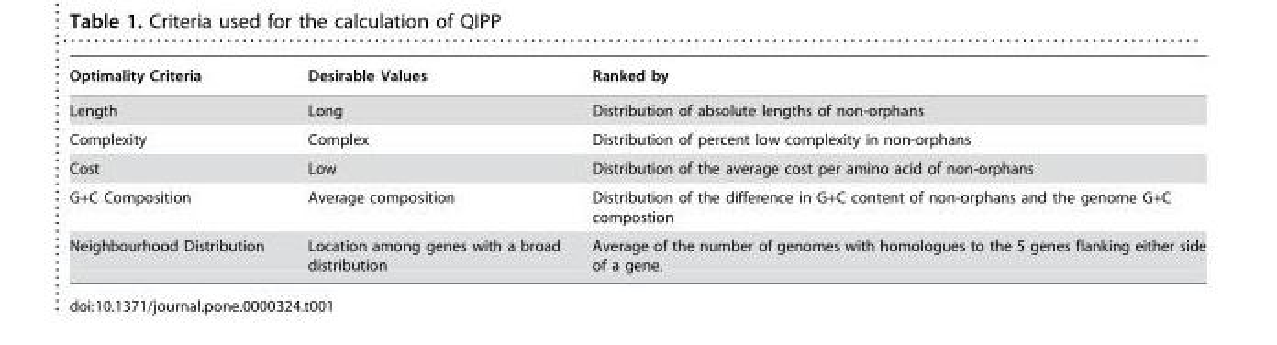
<table><thead><tr><td>Optimality Criteria</td><td>Desirable Values</td><td>Ranked by</td></tr></thead><tbody><tr><td>Length</td><td>Long</td><td>Distribution of absolute lengths of non-orphans</td></tr><tr><td>Complexity</td><td>Complex</td><td>Distribution of percent low complexity in non-orphans</td></tr><tr><td>Cost</td><td>Low</td><td>Distribution of the average cost per amino acid of non-orphans</td></tr><tr><td>G+C Composition</td><td>Average composition</td><td>Distribution of the difference in G+C content of non-orphans and the genome G+C compostion</td></tr><tr><td>Neighbourhood Distribution</td><td>Location among genes with a broad distribution</td><td>Average of the number of genomes with homologues to the 5 genes flanking either side of a gene.</td></tr></tbody></table>